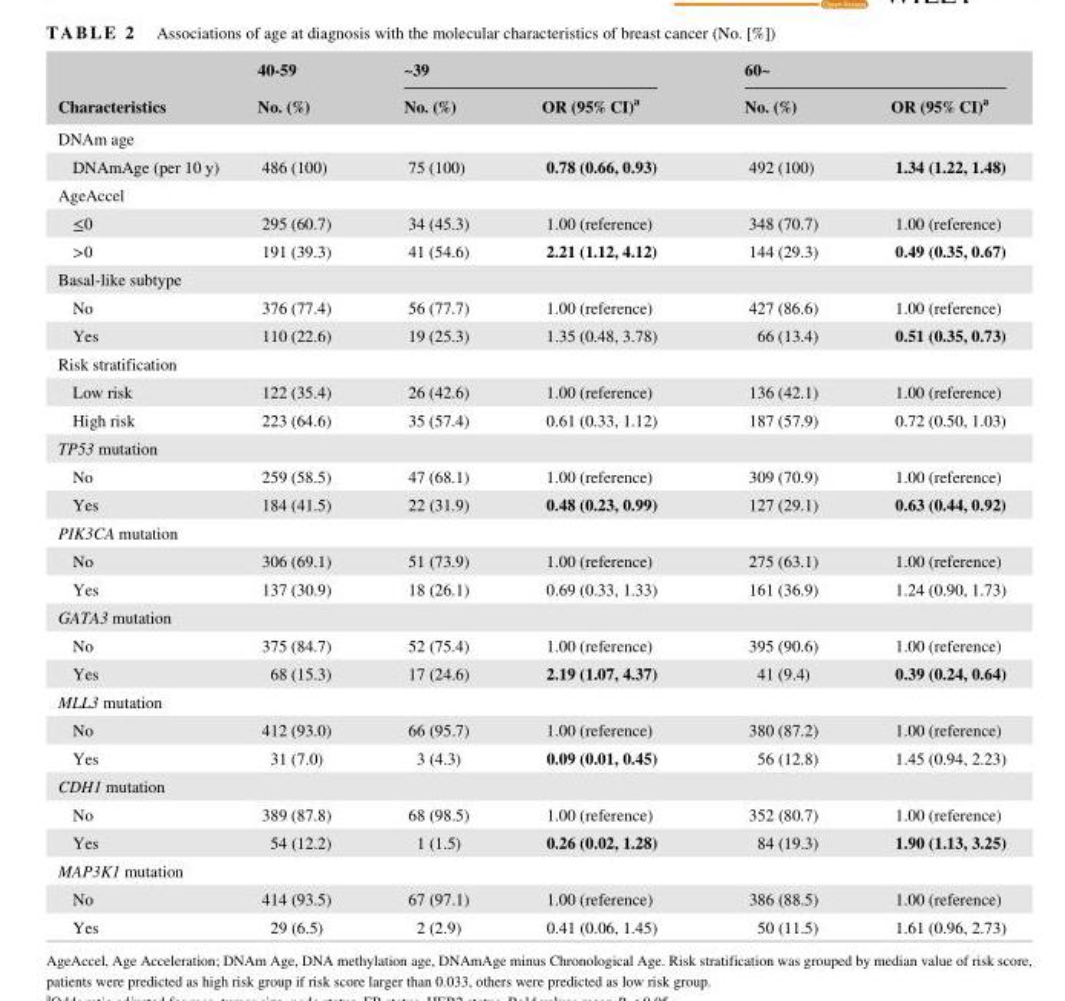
<table><thead><tr><td rowspan="2">Characteristics</td><td rowspan="2">40- 59 No. (%)</td><td colspan="2">~39</td><td colspan="2">60~</td></tr><tr><td>No. (%)</td><td>OR (95% CI)<sup>a</sup></td><td>No. (%)</td><td>OR (95% CI)<sup>a</sup></td></tr></thead><tbody><tr><td colspan="6">DNAm age</td></tr><tr><td>DNAmAge (per 10 y)</td><td>486 (100)</td><td>75 (100)</td><td>0.78 (0.66, 0.93)</td><td>492 (100)</td><td>1.34 (1.22, 1.48)</td></tr><tr><td colspan="6">AgeAccel</td></tr><tr><td>≤0</td><td>295 (60.7)</td><td>34 (45.3)</td><td>1.00 (reference)</td><td>348 (70.7)</td><td>1.00 (reference)</td></tr><tr><td>&gt;0</td><td>191 (39.3)</td><td>41 (54.6)</td><td>2.21 (1.12, 4.12)</td><td>144 (29.3)</td><td>0.49 (0.35, 0.67)</td></tr><tr><td colspan="6">Basal- like subtype</td></tr><tr><td>No</td><td>376 (77.4)</td><td>56 (77.7)</td><td>1.00 (reference)</td><td>427 (86.6)</td><td>1.00 (reference)</td></tr><tr><td>Yes</td><td>110 (22.6)</td><td>19 (25.3)</td><td>1.35 (0.48, 3.78)</td><td>66 (13.4)</td><td>0.51 (0.35, 0.73)</td></tr><tr><td colspan="6">Risk stratification</td></tr><tr><td>Low risk</td><td>122 (35.4)</td><td>26 (42.6)</td><td>1.00 (reference)</td><td>136 (42.1)</td><td>1.00 (reference)</td></tr><tr><td>High risk</td><td>223 (64.6)</td><td>35 (57.4)</td><td>0.61 (0.33, 1.12)</td><td>187 (57.9)</td><td>0.72 (0.50, 1.03)</td></tr><tr><td colspan="6">TP53 mutation</td></tr><tr><td>No</td><td>259 (58.5)</td><td>47 (68.1)</td><td>1.00 (reference)</td><td>309 (70.9)</td><td>1.00 (reference)</td></tr><tr><td>Yes</td><td>184 (41.5)</td><td>22 (31.9)</td><td>0.48 (0.23, 0.99)</td><td>127 (29.1)</td><td>0.63 (0.44, 0.92)</td></tr><tr><td colspan="6">PIK3CA mutation</td></tr><tr><td>No</td><td>306 (69.1)</td><td>51 (73.9)</td><td>1.00 (reference)</td><td>275 (63.1)</td><td>1.00 (reference)</td></tr><tr><td>Yes</td><td>137 (30.9)</td><td>18 (26.1)</td><td>0.69 (0.33, 1.33)</td><td>161 (36.9)</td><td>1.24 (0.90, 1.73)</td></tr><tr><td colspan="6">GATA3 mutation</td></tr><tr><td>No</td><td>375 (84.7)</td><td>52 (75.4)</td><td>1.00 (reference)</td><td>395 (90.6)</td><td>1.00 (reference)</td></tr><tr><td>Yes</td><td>68 (15.3)</td><td>17 (24.6)</td><td>2.19 (1.07, 4.37)</td><td>41 (9.4)</td><td>0.39 (0.24, 0.64)</td></tr><tr><td colspan="6">MLL3 mutation</td></tr><tr><td>No</td><td>412 (93.0)</td><td>66 (95.7)</td><td>1.00 (reference)</td><td>380 (87.2)</td><td>1.00 (reference)</td></tr><tr><td>Yes</td><td>31 (7.0)</td><td>3 (4.3)</td><td>0.09 (0.01, 0.45)</td><td>56 (12.8)</td><td>1.45 (0.94, 2.23)</td></tr><tr><td colspan="6">CDH1 mutation</td></tr><tr><td>No</td><td>389 (87.8)</td><td>68 (98.5)</td><td>1.00 (reference)</td><td>352 (80.7)</td><td>1.00 (reference)</td></tr><tr><td>Yes</td><td>54 (12.2)</td><td>1 (1.5)</td><td>0.26 (0.02, 1.28)</td><td>84 (19.3)</td><td>1.90 (1.13, 3.25)</td></tr><tr><td colspan="6">MAP3K1 mutation</td></tr><tr><td>No</td><td>414 (93.5)</td><td>67 (97.1)</td><td>1.00 (reference)</td><td>386 (88.5)</td><td>1.00 (reference)</td></tr><tr><td>Yes</td><td>29 (6.5)</td><td>2 (2.9)</td><td>0.41 (0.06, 1.45)</td><td>50 (11.5)</td><td>1.61 (0.96, 2.73)</td></tr></tbody></table>